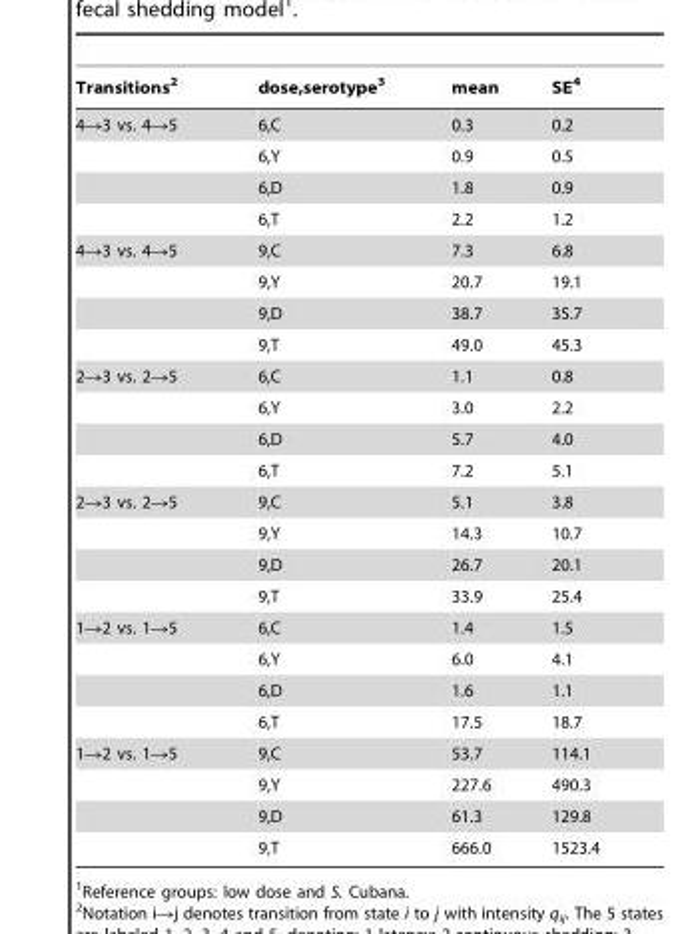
<table><thead><tr><td>Transitions<sup>2</sup></td><td>dose,serotype<sup>3</sup></td><td>mean</td><td>SE<sup>4</sup></td></tr></thead><tbody><tr><td rowspan="4">4→3 vs. 4→5</td><td>6,C</td><td>0.3</td><td>0.2</td></tr><tr><td>6,Y</td><td>0.9</td><td>0.5</td></tr><tr><td>6,D</td><td>1.8</td><td>0.9</td></tr><tr><td>6,T</td><td>2.2</td><td>1.2</td></tr><tr><td rowspan="4">4→3 vs. 4→5</td><td>9,C</td><td>7.3</td><td>6.8</td></tr><tr><td>9,Y</td><td>20.7</td><td>19.1</td></tr><tr><td>9,D</td><td>38.7</td><td>35.7</td></tr><tr><td>9,T</td><td>49.0</td><td>45.3</td></tr><tr><td rowspan="4">2→3 vs. 2→5</td><td>6,C</td><td>1.1</td><td>0.8</td></tr><tr><td>6,Y</td><td>3.0</td><td>2.2</td></tr><tr><td>6,D</td><td>5.7</td><td>4.0</td></tr><tr><td>6,T</td><td>7.2</td><td>5.1</td></tr><tr><td rowspan="4">2→3 vs. 2→5</td><td>9,C</td><td>5.1</td><td>3.8</td></tr><tr><td>9,Y</td><td>14.3</td><td>10.7</td></tr><tr><td>9,D</td><td>26.7</td><td>20.1</td></tr><tr><td>9,T</td><td>33.9</td><td>25.4</td></tr><tr><td rowspan="4">1→2 vs. 1→5</td><td>6,C</td><td>1.4</td><td>1.5</td></tr><tr><td>6,Y</td><td>6.0</td><td>4.1</td></tr><tr><td>6,D</td><td>1.6</td><td>1.1</td></tr><tr><td>6,T</td><td>17.5</td><td>18.7</td></tr><tr><td rowspan="4">1→2 vs. 1→5</td><td>9,C</td><td>53.7</td><td>114.1</td></tr><tr><td>9,Y</td><td>227.6</td><td>490.3</td></tr><tr><td>9,D</td><td>61.3</td><td>129.8</td></tr><tr><td>9,T</td><td>666.0</td><td>1523.4</td></tr></tbody></table>